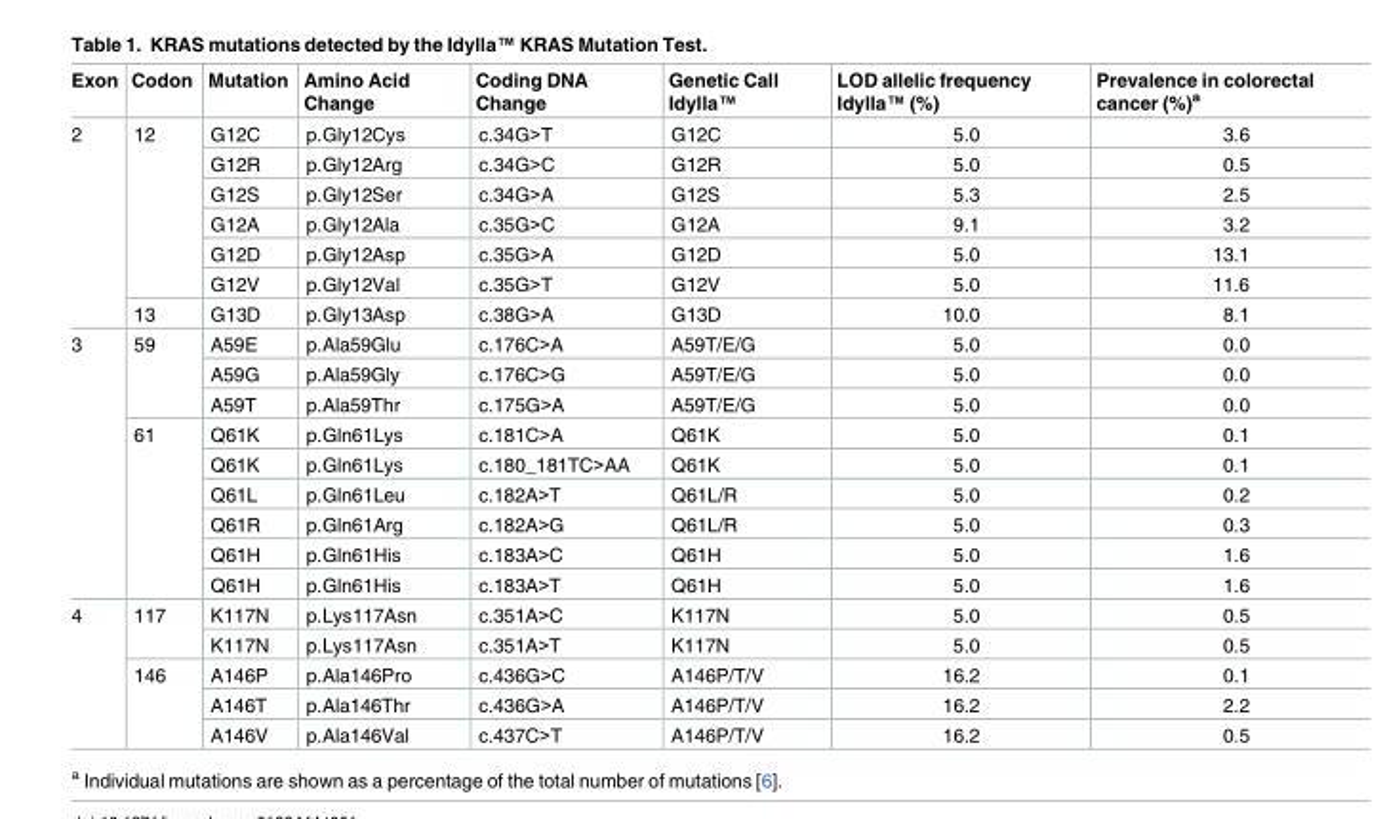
<table><thead><tr><td>Exon</td><td>Codon</td><td>Mutation</td><td>Amino Acid Change</td><td>Coding DNA Change</td><td>Genetic Call Idylla<sup>™</sup></td><td>LOD allelic frequency Idylla<sup>™</sup> (%)</td><td>Prevalence in colorectal cancer (%)<sup>a</sup></td></tr></thead><tbody><tr><td rowspan="7">2</td><td rowspan="6">12</td><td>G12C</td><td>p.Gly12Cys</td><td>c.34G&gt;T</td><td>G12C</td><td>5.0</td><td>3.6</td></tr><tr><td>G12R</td><td>p.Gly12Arg</td><td>c.34G&gt;C</td><td>G12R</td><td>5.0</td><td>0.5</td></tr><tr><td>G12S</td><td>p.Gly12Ser</td><td>c.34G&gt;A</td><td>G12S</td><td>5.3</td><td>2.5</td></tr><tr><td>G12A</td><td>p.Gly12Ala</td><td>c.35G&gt;C</td><td>G12A</td><td>9.1</td><td>3.2</td></tr><tr><td>G12D</td><td>p.Gly12Asp</td><td>c.35G&gt;A</td><td>G12D</td><td>5.0</td><td>13.1</td></tr><tr><td>G12V</td><td>p.Gly12Val</td><td>c.35G&gt;T</td><td>G12V</td><td>5.0</td><td>11.6</td></tr><tr><td>13</td><td>G13D</td><td>p.Gly13Asp</td><td>c.38G&gt;A</td><td>G13D</td><td>10.0</td><td>8.1</td></tr><tr><td rowspan="9">3</td><td rowspan="3">59</td><td>A59E</td><td>p.Ala59Glu</td><td>c.176C&gt;A</td><td>A59T/E/G</td><td>5.0</td><td>0.0</td></tr><tr><td>A59G</td><td>p.Ala59Gly</td><td>c.176C&gt;G</td><td>A59T/E/G</td><td>5.0</td><td>0.0</td></tr><tr><td>A59T</td><td>p.Ala59Thr</td><td>c.175G&gt;A</td><td>A59T/E/G</td><td>5.0</td><td>0.0</td></tr><tr><td rowspan="6">61</td><td>Q61K</td><td>p.Gln61Lys</td><td>c.181C&gt;A</td><td>Q61K</td><td>5.0</td><td>0.1</td></tr><tr><td>Q61K</td><td>p.Gln61Lys</td><td>c.180_181TC&gt;AA</td><td>Q61K</td><td>5.0</td><td>0.1</td></tr><tr><td>Q61L</td><td>p.Gln61Leu</td><td>c.182A&gt;T</td><td>Q61L/R</td><td>5.0</td><td>0.2</td></tr><tr><td>Q61R</td><td>p.Gln61Arg</td><td>c.182A&gt;G</td><td>Q61L/R</td><td>5.0</td><td>0.3</td></tr><tr><td>Q61H</td><td>p.Gln61His</td><td>c.183A&gt;C</td><td>Q61H</td><td>5.0</td><td>1.6</td></tr><tr><td>Q61H</td><td>p.Gln61His</td><td>c.183A&gt;T</td><td>Q61H</td><td>5.0</td><td>1.6</td></tr><tr><td rowspan="5">4</td><td rowspan="2">117</td><td>K117N</td><td>p.Lys117Asn</td><td>c.351A&gt;C</td><td>K117N</td><td>5.0</td><td>0.5</td></tr><tr><td>K117N</td><td>p.Lys117Asn</td><td>c.351A&gt;T</td><td>K117N</td><td>5.0</td><td>0.5</td></tr><tr><td rowspan="3">146</td><td>A146P</td><td>p.Ala146Pro</td><td>c.436G&gt;C</td><td>A146P/T/V</td><td>16.2</td><td>0.1</td></tr><tr><td>A146T</td><td>p.Ala146Thr</td><td>c.436G&gt;A</td><td>A146P/T/V</td><td>16.2</td><td>2.2</td></tr><tr><td>A146V</td><td>p.Ala146Val</td><td>c.437C&gt;T</td><td>A146P/T/V</td><td>16.2</td><td>0.5</td></tr></tbody></table>